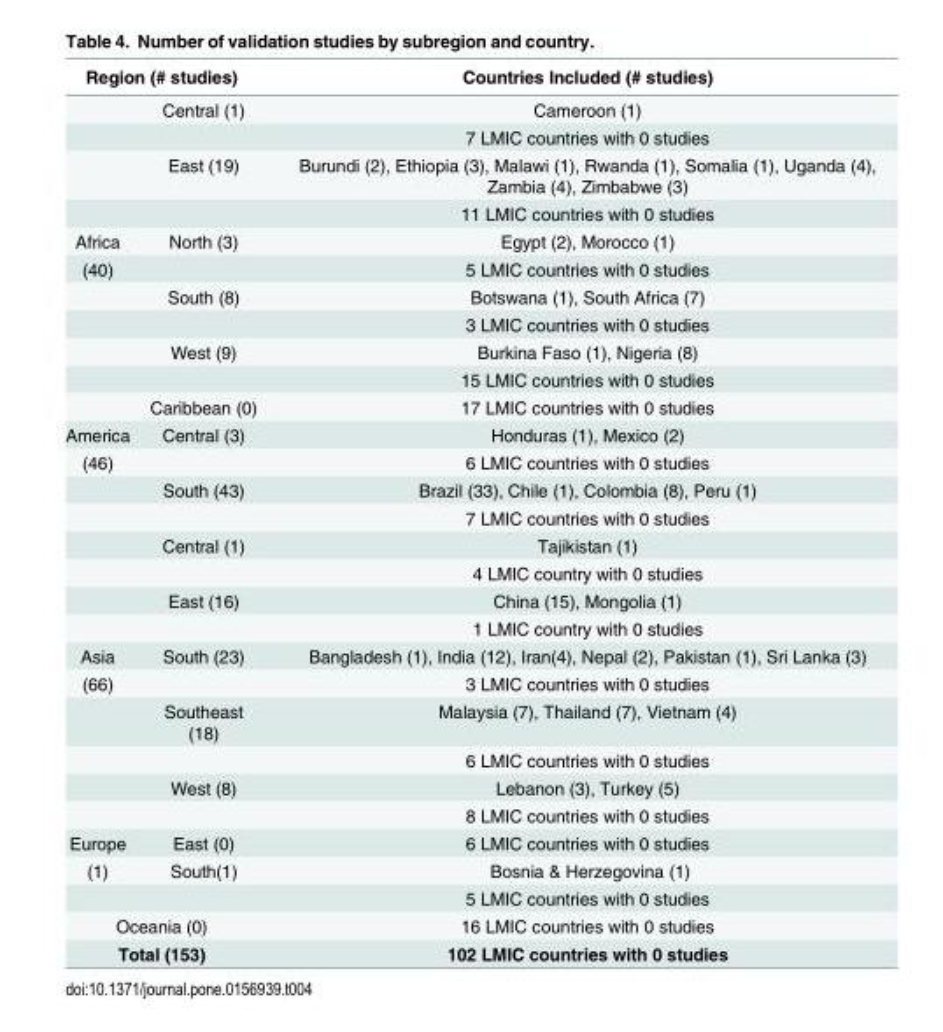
<table><thead><tr><td colspan="2">Region (# studies)</td><td rowspan="2">Countries Included (# studies) Cameroon (1)</td></tr><tr><td></td><td>Central (1)</td></tr></thead><tbody><tr><td></td><td></td><td>7 LMIC countries with 0 studies</td></tr><tr><td></td><td>East (19)</td><td>Burundi (2), Ethiopia (3), Malawi (1), Rwanda (1), Somalia (1), Uganda (4), Zambia (4), Zimbabwe (3)</td></tr><tr><td></td><td></td><td>11 LMIC countries with 0 studies</td></tr><tr><td>Africa</td><td>North (3)</td><td>Egypt (2), Morocco (1)</td></tr><tr><td rowspan="6">(40)</td><td></td><td>5 LMIC countries with 0 studies</td></tr><tr><td>South (8)</td><td>Botswana (1), South Africa (7)</td></tr><tr><td></td><td>3 LMIC countries with 0 studies</td></tr><tr><td>West (9)</td><td>Burkina Faso (1), Nigeria (8)</td></tr><tr><td></td><td>15 LMIC countries with 0 studies</td></tr><tr><td>Caribbean (0)</td><td>17 LMIC countries with 0 studies</td></tr><tr><td>America</td><td>Central (3)</td><td>Honduras (1), Mexico (2)</td></tr><tr><td rowspan="7">(46)</td><td></td><td>6 LMIC countries with 0 studies</td></tr><tr><td>South (43)</td><td>Brazil (33), Chile (1), Colombia (8), Peru (1)</td></tr><tr><td></td><td>7 LMIC countries with 0 studies</td></tr><tr><td>Central (1)</td><td>Tajikistan (1)</td></tr><tr><td></td><td>4 LMIC country with 0 studies</td></tr><tr><td>East (16)</td><td>China (15), Mongolia (1)</td></tr><tr><td></td><td>1 LMIC country with 0 studies</td></tr><tr><td>Asia</td><td>South (23)</td><td>Bangladesh (1), India (12), Iran(4), Nepal (2), Pakistan (1), Sri Lanka (3)</td></tr><tr><td rowspan="5">(66)</td><td></td><td>3 LMIC countries with 0 studies</td></tr><tr><td>Southeast (18)</td><td>Malaysia (7), Thailand (7), Vietnam (4)</td></tr><tr><td></td><td>6 LMIC countries with 0 studies</td></tr><tr><td>West (8)</td><td>Lebanon (3), Turkey (5)</td></tr><tr><td></td><td>8 LMIC countries with 0 studies</td></tr><tr><td>Europe</td><td>East (0)</td><td>6 LMIC countries with 0 studies</td></tr><tr><td rowspan="2">(1)</td><td>South(1)</td><td>Bosnia &amp; Herzegovina (1)</td></tr><tr><td></td><td>5 LMIC countries with 0 studies</td></tr><tr><td colspan="2">Oceania (0)</td><td>16 LMIC countries with 0 studies</td></tr><tr><td colspan="2">Total (153)</td><td>102 LMIC countries with 0 studies</td></tr></tbody></table>